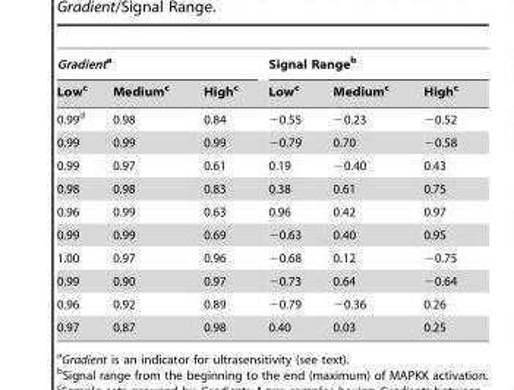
<table><thead><tr><td colspan="3">Gradienta</td><td colspan="3">Signal Range<sup>b</sup></td></tr><tr><td>Low<sup>c</sup></td><td>Medium<sup>c</sup></td><td>High<sup>c</sup></td><td>Low<sup>c</sup></td><td>Medium<sup>c</sup></td><td>High<sup>c</sup></td></tr></thead><tbody><tr><td>0.99<sup>d</sup></td><td>0.98</td><td>0.84</td><td>−0.55</td><td>−0.23</td><td>−0.52</td></tr><tr><td>0.99</td><td>0.99</td><td>0.99</td><td>−0.79</td><td>0.70</td><td>−0.58</td></tr><tr><td>0.99</td><td>0.97</td><td>0.61</td><td>0.19</td><td>−0.40</td><td>0.43</td></tr><tr><td>0.98</td><td>0.98</td><td>0.83</td><td>0.38</td><td>0.61</td><td>0.75</td></tr><tr><td>0.96</td><td>0.99</td><td>0.63</td><td>0.96</td><td>0.42</td><td>0.97</td></tr><tr><td>0.99</td><td>0.99</td><td>0.69</td><td>−0.63</td><td>0.40</td><td>0.95</td></tr><tr><td>1.00</td><td>0.97</td><td>0.96</td><td>−0.68</td><td>0.12</td><td>−0.75</td></tr><tr><td>0.99</td><td>0.90</td><td>0.97</td><td>−0.73</td><td>0.64</td><td>−0.64</td></tr><tr><td>0.96</td><td>0.92</td><td>0.89</td><td>−0.79</td><td>−0.36</td><td>0.26</td></tr><tr><td>0.97</td><td>0.87</td><td>0.98</td><td>0.40</td><td>0.03</td><td>0.25</td></tr></tbody></table>